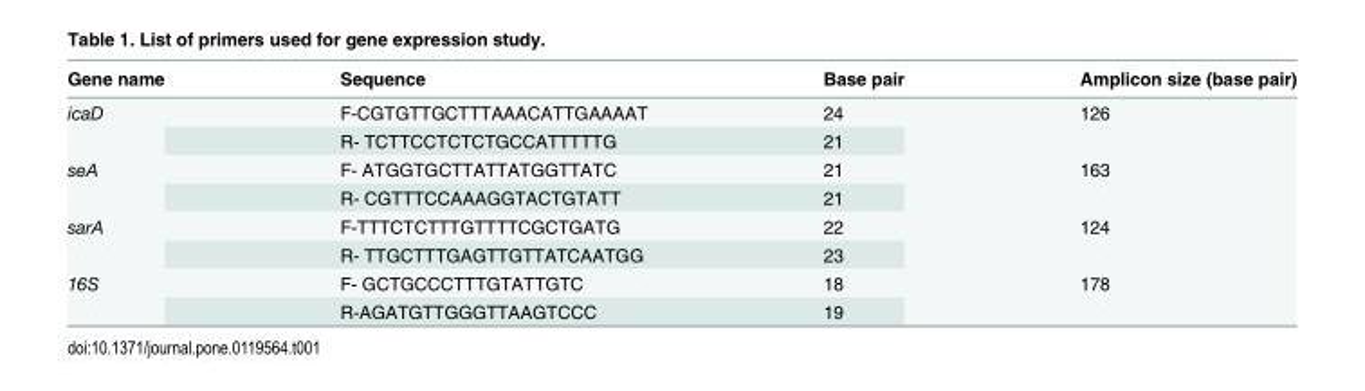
<table><thead><tr><td>Gene name</td><td>Sequence</td><td>Base pair</td><td>Amplicon size (base pair)</td></tr></thead><tbody><tr><td rowspan="2">icaD</td><td>F-CGTGTTGCTTTAAACATTGAAAAT</td><td>24</td><td rowspan="2">126</td></tr><tr><td>R- TCTTCCTCTCTGCCATTTTTG</td><td>21</td></tr><tr><td rowspan="2">seA</td><td>F- ATGGTGCTTATTATGGTTATC</td><td>21</td><td rowspan="2">163</td></tr><tr><td>R- CGTTTCCAAAGGTACTGTATT</td><td>21</td></tr><tr><td rowspan="2">sarA</td><td>F-TTTCTCTTTGTTTTCGCTGATG</td><td>22</td><td rowspan="2">124</td></tr><tr><td>R- TTGCTTTGAGTTGTTATCAATGG</td><td>23</td></tr><tr><td rowspan="2">16S</td><td>F- GCTGCCCTTTGTATTGTC</td><td>18</td><td rowspan="2">178</td></tr><tr><td>R-AGATGTTGGGTTAAGTCCC</td><td>19</td></tr></tbody></table>